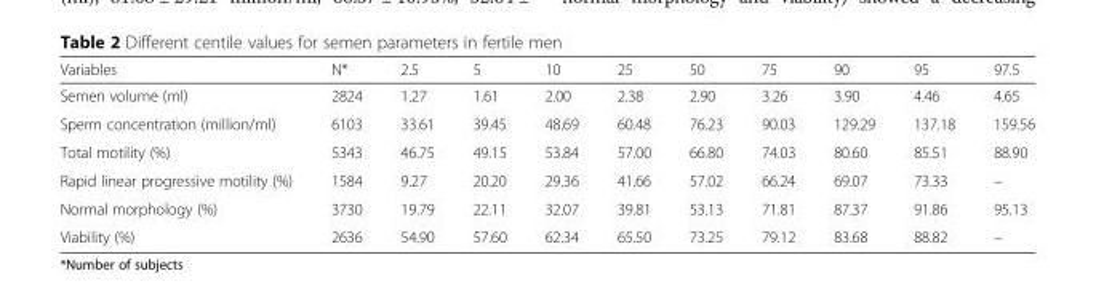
<table><thead><tr><td>Variables</td><td>N*</td><td>2.5</td><td>5</td><td>10</td><td>25</td><td>50</td><td>75</td><td>90</td><td>95</td><td>97.5</td></tr></thead><tbody><tr><td>Semen volume (ml)</td><td>2824</td><td>1.27</td><td>1.61</td><td>2.00</td><td>2.38</td><td>2.90</td><td>3.26</td><td>3.90</td><td>4.46</td><td>4.65</td></tr><tr><td>Sperm concentration (million/ml)</td><td>6103</td><td>33.61</td><td>39.45</td><td>48.69</td><td>60.48</td><td>76.23</td><td>90.03</td><td>129.29</td><td>137.18</td><td>159.56</td></tr><tr><td>Total motility (%)</td><td>5343</td><td>46.75</td><td>49.15</td><td>53.84</td><td>57.00</td><td>66.80</td><td>74.03</td><td>80.60</td><td>85.51</td><td>88.90</td></tr><tr><td>Rapid linear progressive motility (%)</td><td>1584</td><td>9.27</td><td>20.20</td><td>29.36</td><td>41.66</td><td>57.02</td><td>66.24</td><td>69.07</td><td>73.33</td><td>–</td></tr><tr><td>Normal morphology (%)</td><td>3730</td><td>19.79</td><td>22.11</td><td>32.07</td><td>39.81</td><td>53.13</td><td>71.81</td><td>87.37</td><td>91.86</td><td>95.13</td></tr><tr><td>Viability (%)</td><td>2636</td><td>54.90</td><td>57.60</td><td>62.34</td><td>65.50</td><td>73.25</td><td>79.12</td><td>83.68</td><td>88.82</td><td>–</td></tr></tbody></table>